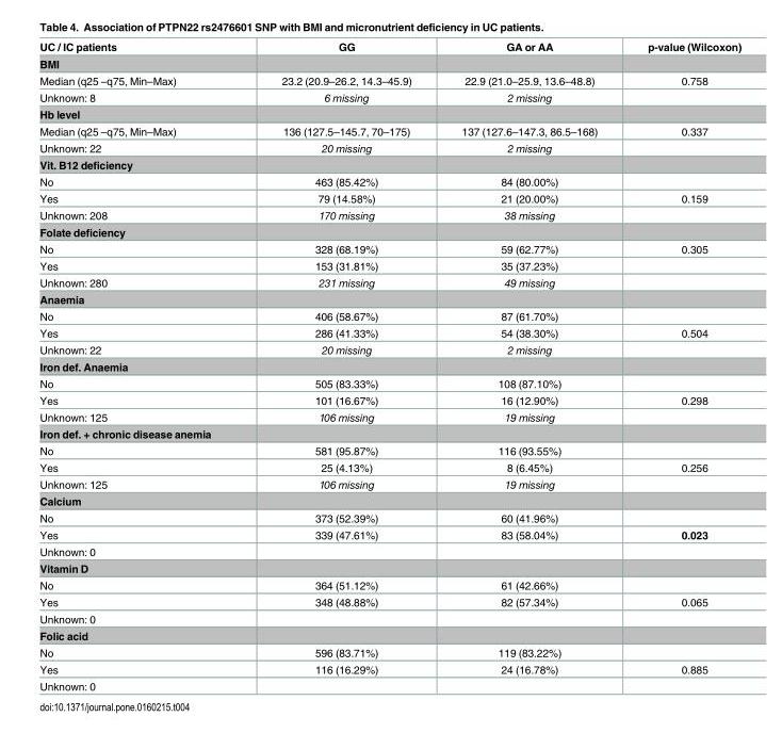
<table><thead><tr><td>UC / IC patients</td><td>GG</td><td>GA or AA</td><td>p-value (Wilcoxon)</td></tr></thead><tbody><tr><td colspan="4">BMI</td></tr><tr><td>Median (q25 –q75, Min–Max)</td><td>23.2 (20.9–26.2, 14.3–45.9)</td><td>22.9 (21.0–25.9, 13.6–48.8)</td><td>0.758</td></tr><tr><td>Unknown: 8</td><td>6 missing</td><td>2 missing</td><td></td></tr><tr><td colspan="4">Hb level</td></tr><tr><td>Median (q25 –q75, Min–Max)</td><td>136 (127.5–145.7, 70–175)</td><td>137 (127.6–147.3, 86.5–168)</td><td>0.337</td></tr><tr><td>Unknown: 22</td><td>20 missing</td><td>2 missing</td><td></td></tr><tr><td colspan="4">Vit. B12 deficiency</td></tr><tr><td>No</td><td>463 (85.42%)</td><td>84 (80.00%)</td><td></td></tr><tr><td>Yes</td><td>79 (14.58%)</td><td>21 (20.00%)</td><td>0.159</td></tr><tr><td>Unknown: 208</td><td>170 missing</td><td>38 missing</td><td></td></tr><tr><td colspan="4">Folate deficiency</td></tr><tr><td>No</td><td>328 (68.19%)</td><td>59 (62.77%)</td><td>0.305</td></tr><tr><td>Yes</td><td>153 (31.81%)</td><td>35 (37.23%)</td><td></td></tr><tr><td>Unknown: 280</td><td>231 missing</td><td>49 missing</td><td></td></tr><tr><td colspan="4">Anaemia</td></tr><tr><td>No</td><td>406 (58.67%)</td><td>87 (61.70%)</td><td></td></tr><tr><td>Yes</td><td>286 (41.33%)</td><td>54 (38.30%)</td><td>0.504</td></tr><tr><td>Unknown: 22</td><td>20 missing</td><td>2 missing</td><td></td></tr><tr><td colspan="4">Iron def. Anaemia</td></tr><tr><td>No</td><td>505 (83.33%)</td><td>108 (87.10%)</td><td></td></tr><tr><td>Yes</td><td>101 (16.67%)</td><td>16 (12.90%)</td><td>0.298</td></tr><tr><td>Unknown: 125</td><td>106 missing</td><td>19 missing</td><td></td></tr><tr><td colspan="4">Iron def. + chronic disease anemia</td></tr><tr><td>No</td><td>581 (95.87%)</td><td>116 (93.55%)</td><td></td></tr><tr><td>Yes</td><td>25 (4.13%)</td><td>8 (6.45%)</td><td>0.256</td></tr><tr><td>Unknown: 125</td><td>106 missing</td><td>19 missing</td><td></td></tr><tr><td colspan="4">Calcium</td></tr><tr><td>No</td><td>373 (52.39%)</td><td>60 (41.96%)</td><td></td></tr><tr><td>Yes</td><td>339 (47.61%)</td><td>83 (58.04%)</td><td>0.023</td></tr><tr><td colspan="4">Unknown: 0</td></tr><tr><td colspan="4">Vitamin D</td></tr><tr><td>No</td><td>364 (51.12%)</td><td>61 (42.66%)</td><td></td></tr><tr><td>Yes</td><td>348 (48.88%)</td><td>82 (57.34%)</td><td>0.065</td></tr><tr><td colspan="4">Unknown: 0</td></tr><tr><td colspan="4">Folic acid</td></tr><tr><td>No</td><td>596 (83.71%)</td><td>119 (83.22%)</td><td></td></tr><tr><td>Yes</td><td>116 (16.29%)</td><td>24 (16.78%)</td><td>0.885</td></tr><tr><td>Unknown: 0</td><td></td><td></td><td></td></tr></tbody></table>